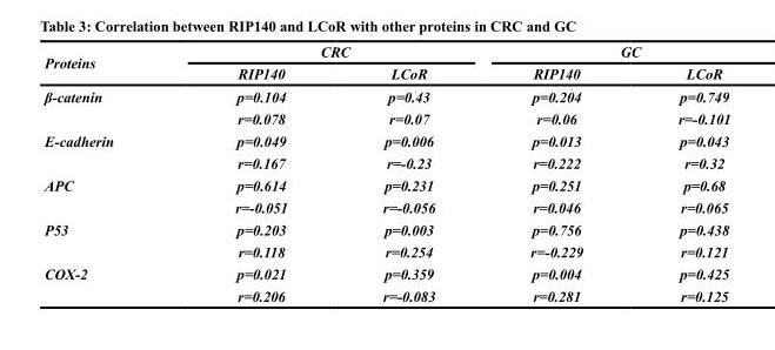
<table><thead><tr><td rowspan="2">Proteins</td><td colspan="2">CRC</td><td colspan="2">GC</td></tr><tr><td>RIP140</td><td>LCoR</td><td>RIP140</td><td>LCoR</td></tr></thead><tbody><tr><td rowspan="2">β-catenin</td><td>p=0.104</td><td>p=0.43</td><td>p=0.204</td><td>p=0.749</td></tr><tr><td>r=0.078</td><td>r=0.07</td><td>r=0.06</td><td>r=-0.101</td></tr><tr><td rowspan="2">E-cadherin</td><td>p=0.049</td><td>p=0.006</td><td>p=0.013</td><td>p=0.043</td></tr><tr><td>r=0.167</td><td>r=-0.23</td><td>r=0.222</td><td>r=0.32</td></tr><tr><td rowspan="2">APC</td><td>p=0.614</td><td>p=0.231</td><td>p=0.251</td><td>p=0.68</td></tr><tr><td>r=-0.051</td><td>r=-0.056</td><td>r=0.046</td><td>r=0.065</td></tr><tr><td rowspan="2">P53</td><td>p=0.203</td><td>p=0.003</td><td>p=0.756</td><td>p=0.438</td></tr><tr><td>r=0.118</td><td>r=0.254</td><td>r=-0.229</td><td>r=0.121</td></tr><tr><td rowspan="2">COX-2</td><td>p=0.021</td><td>p=0.359</td><td>p=0.004</td><td>p=0.425</td></tr><tr><td>r=0.206</td><td>r=-0.083</td><td>r=0.281</td><td>r=0.125</td></tr></tbody></table>